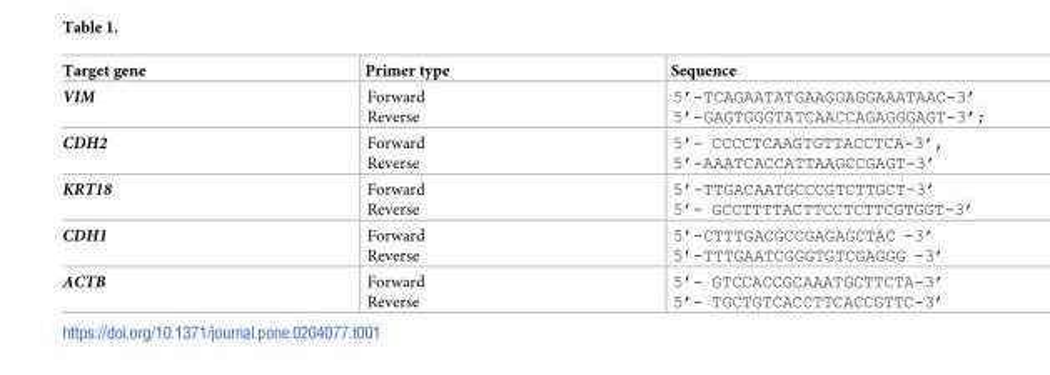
<table><thead><tr><td>Target gene</td><td>Primer type</td><td>Sequence</td></tr></thead><tbody><tr><td>VIM</td><td>Forward Reverse</td><td>5’-TCAGAATATGAAGGAGGAAATAAC-3’ 5’-GAGTGGGTATCAACCAGAGGGAGT-3’;</td></tr><tr><td>CDH2</td><td>Forward Reverse</td><td>5’- CCCCTCAAGTGTTACCTCA-3’, 5’-AAATCACCATTAAGCCGAGT-3’</td></tr><tr><td>KRT18</td><td>Forward Reverse</td><td>5’-TTGACAATGCCCGTCTTGCT-3’ 5’- GCCTTTTACTTCCTCTTCGTGGT-3’</td></tr><tr><td>CDH1</td><td>Forward Reverse</td><td>5’-CTTTGACGCCGAGAGCTAC -3’ 5’-TTTGAATCGGGTGTCGAGGG -3’</td></tr><tr><td>ACTB</td><td>Forward Reverse</td><td>5’- GTCCACCGCAAATGCTTCTA-3’ 5’- TGCTGTCACCTTCACCGTTC-3’</td></tr></tbody></table>